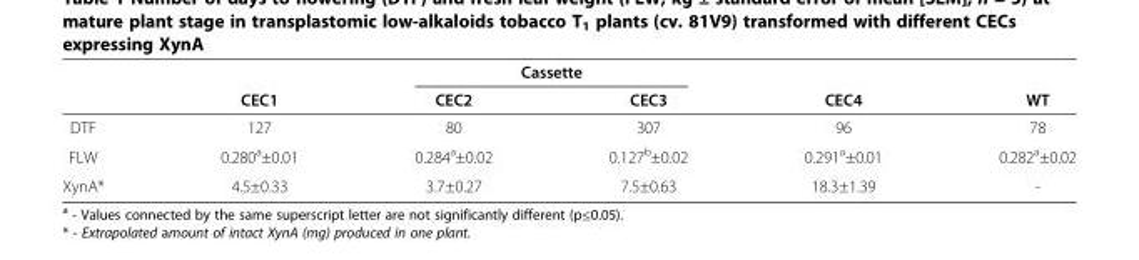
<table><thead><tr><td rowspan="2"></td><td rowspan="2">CEC1</td><td colspan="2">Cassette</td><td rowspan="2">CEC4</td><td rowspan="2">WT</td></tr><tr><td>CEC2</td><td>CEC3</td></tr></thead><tbody><tr><td>DTF</td><td>127</td><td>80</td><td>307</td><td>96</td><td>78</td></tr><tr><td>FLW</td><td>0.280<sup>a</sup>±0.01</td><td>0.284<sup>a</sup>±0.02</td><td>0.127<sup>b</sup>±0.02</td><td>0.291<sup>a</sup>±0.01</td><td>0.282<sup>a</sup>±0.02</td></tr><tr><td>XynA*</td><td>4.5±0.33</td><td>3.7±0.27</td><td>7.5±0.63</td><td>18.3±1.39</td><td>-</td></tr></tbody></table>